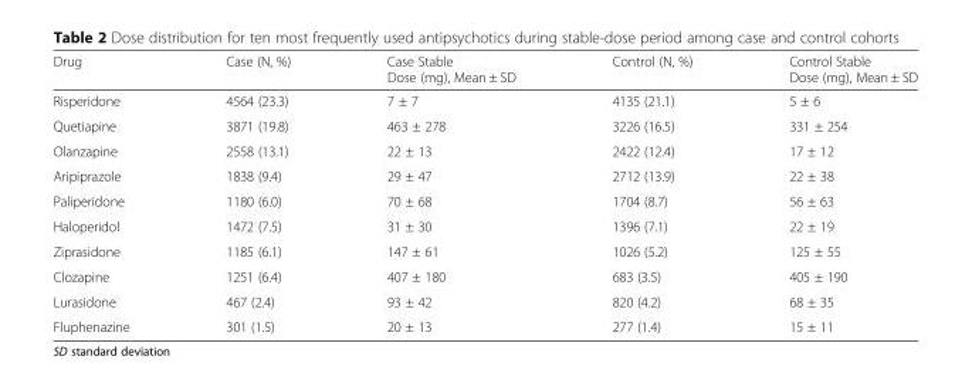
<table><thead><tr><td>Drug</td><td>Case (N, %)</td><td>Case Stable Dose (mg), Mean ± SD</td><td>Control (N, %)</td><td>Control Stable Dose (mg), Mean ± SD</td></tr></thead><tbody><tr><td>Risperidone</td><td>4564 (23.3)</td><td>7 ± 7</td><td>4135 (21.1)</td><td>5 ± 6</td></tr><tr><td>Quetiapine</td><td>3871 (19.8)</td><td>463 ± 278</td><td>3226 (16.5)</td><td>331 ± 254</td></tr><tr><td>Olanzapine</td><td>2558 (13.1)</td><td>22 ± 13</td><td>2422 (12.4)</td><td>17 ± 12</td></tr><tr><td>Aripiprazole</td><td>1838 (9.4)</td><td>29 ± 47</td><td>2712 (13.9)</td><td>22 ± 38</td></tr><tr><td>Paliperidone</td><td>1180 (6.0)</td><td>70 ± 68</td><td>1704 (8.7)</td><td>56 ± 63</td></tr><tr><td>Haloperidol</td><td>1472 (7.5)</td><td>31 ± 30</td><td>1396 (7.1)</td><td>22 ± 19</td></tr><tr><td>Ziprasidone</td><td>1185 (6.1)</td><td>147 ± 61</td><td>1026 (5.2)</td><td>125 ± 55</td></tr><tr><td>Clozapine</td><td>1251 (6.4)</td><td>407 ± 180</td><td>683 (3.5)</td><td>405 ± 190</td></tr><tr><td>Lurasidone</td><td>467 (2.4)</td><td>93 ± 42</td><td>820 (4.2)</td><td>68 ± 35</td></tr><tr><td>Fluphenazine</td><td>301 (1.5)</td><td>20 ± 13</td><td>277 (1.4)</td><td>15 ± 11</td></tr></tbody></table>